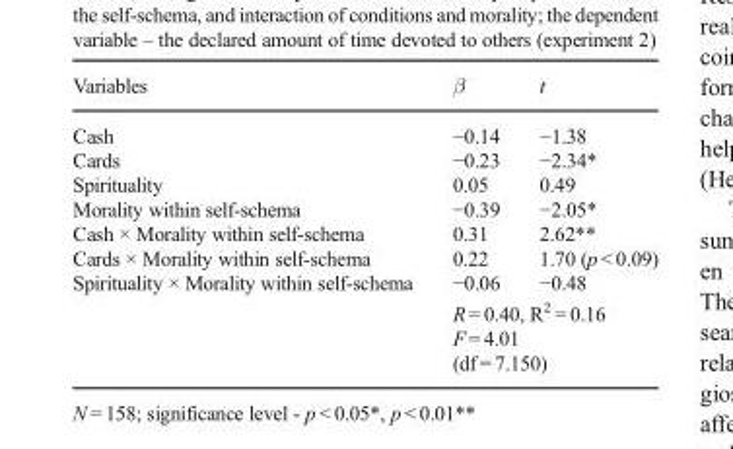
<table><thead><tr><td>Variables</td><td>β</td><td>t</td></tr></thead><tbody><tr><td rowspan="2">Cash Cards Spirituality Morality within self-schema Cash × Morality within self-schema Cards × Morality within self-schema Spirituality × Morality within self-schema</td><td>−0.14 −0.23 0.05 −0.39 0.31 0.22 −0.06</td><td>−1.38 −2.34* 0.49 −2.05* 2.62** 1.70 (p &lt; 0.09) −0.48</td></tr><tr><td colspan="2">R = 0.40, R<sup>2</sup> = 0.16 F = 4.01 (df = 7.150)</td></tr></tbody></table>